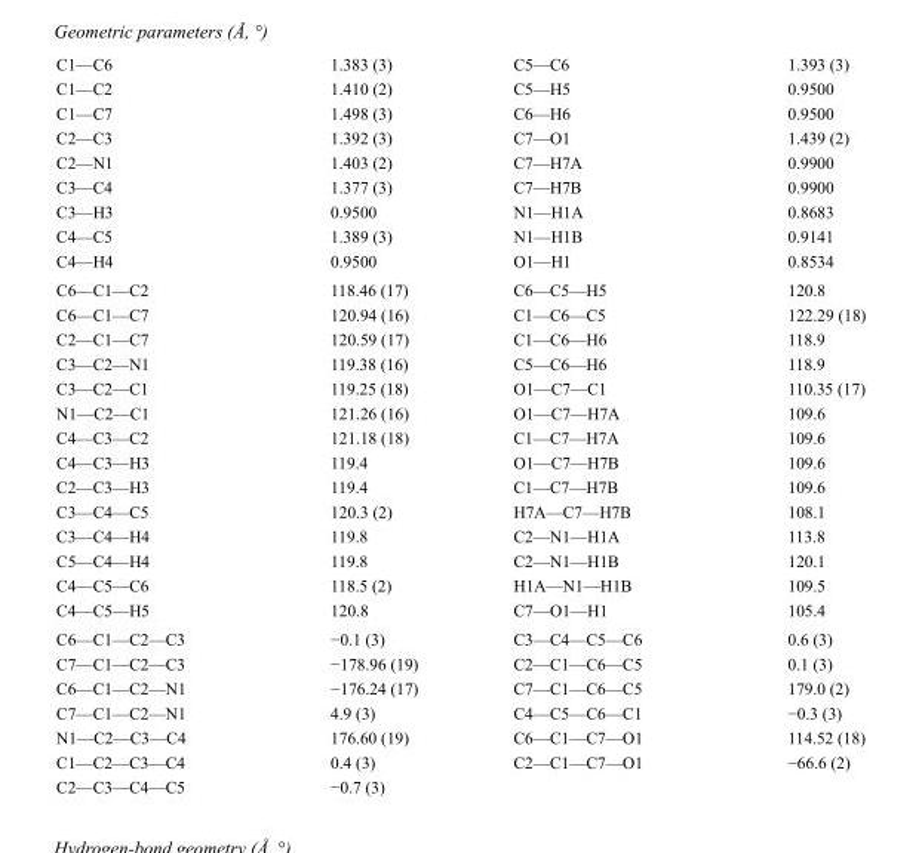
<table><tbody><tr><td>C1—C6</td><td>1.383 (3)</td><td>C5—C6</td><td>1.393 (3)</td></tr><tr><td>C1—C2</td><td>1.410 (2)</td><td>C5—H5</td><td>0.9500</td></tr><tr><td>C1—C7</td><td>1.498 (3)</td><td>C6—H6</td><td>0.9500</td></tr><tr><td>C2—C3</td><td>1.392 (3)</td><td>C7—O1</td><td>1.439 (2)</td></tr><tr><td>C2—N1</td><td>1.403 (2)</td><td>C7—H7A</td><td>0.9900</td></tr><tr><td>C3—C4</td><td>1.377 (3)</td><td>C7—H7B</td><td>0.9900</td></tr><tr><td>C3—H3</td><td>0.9500</td><td>N1—H1A</td><td>0.8683</td></tr><tr><td>C4—C5</td><td>1.389 (3)</td><td>N1—H1B</td><td>0.9141</td></tr><tr><td>C4—H4</td><td>0.9500</td><td>O1—H1</td><td>0.8534</td></tr><tr><td>C6—C1—C2</td><td>118.46 (17)</td><td>C6—C5—H5</td><td>120.8</td></tr><tr><td>C6—C1—C7</td><td>120.94 (16)</td><td>C1—C6—C5</td><td>122.29 (18)</td></tr><tr><td>C2—C1—C7</td><td>120.59 (17)</td><td>C1—C6—H6</td><td>118.9</td></tr><tr><td>C3—C2—N1</td><td>119.38 (16)</td><td>C5—C6—H6</td><td>118.9</td></tr><tr><td>C3—C2—C1</td><td>119.25 (18)</td><td>O1—C7—C1</td><td>110.35 (17)</td></tr><tr><td>N1—C2—C1</td><td>121.26 (16)</td><td>O1—C7—H7A</td><td>109.6</td></tr><tr><td>C4—C3—C2</td><td>121.18 (18)</td><td>C1—C7—H7A</td><td>109.6</td></tr><tr><td>C4—C3—H3</td><td>119.4</td><td>O1—C7—H7B</td><td>109.6</td></tr><tr><td>C2—C3—H3</td><td>119.4</td><td>C1—C7—H7B</td><td>109.6</td></tr><tr><td>C3—C4—C5</td><td>120.3 (2)</td><td>H7A—C7—H7B</td><td>108.1</td></tr><tr><td>C3—C4—H4</td><td>119.8</td><td>C2—N1—H1A</td><td>113.8</td></tr><tr><td>C5—C4—H4</td><td>119.8</td><td>C2—N1—H1B</td><td>120.1</td></tr><tr><td>C4—C5—C6</td><td>118.5 (2)</td><td>H1A—N1—H1B</td><td>109.5</td></tr><tr><td>C4—C5—H5</td><td>120.8</td><td>C7—O1—H1</td><td>105.4</td></tr><tr><td>C6—C1—C2—C3</td><td>−0.1 (3)</td><td>C3—C4—C5—C6</td><td>0.6 (3)</td></tr><tr><td>C7—C1—C2—C3</td><td>−178.96 (19)</td><td>C2—C1—C6—C5</td><td>0.1 (3)</td></tr><tr><td>C6—C1—C2—N1</td><td>−176.24 (17)</td><td>C7—C1—C6—C5</td><td>179.0 (2)</td></tr><tr><td>C7—C1—C2—N1</td><td>4.9 (3)</td><td>C4—C5—C6—C1</td><td>−0.3 (3)</td></tr><tr><td>N1—C2—C3—C4</td><td>176.60 (19)</td><td>C6—C1—C7—O1</td><td>114.52 (18)</td></tr><tr><td>C1—C2—C3—C4</td><td>0.4 (3)</td><td>C2—C1—C7—O1</td><td>−66.6 (2)</td></tr><tr><td>C2—C3—C4—C5</td><td>−0.7 (3)</td><td></td><td></td></tr></tbody></table>